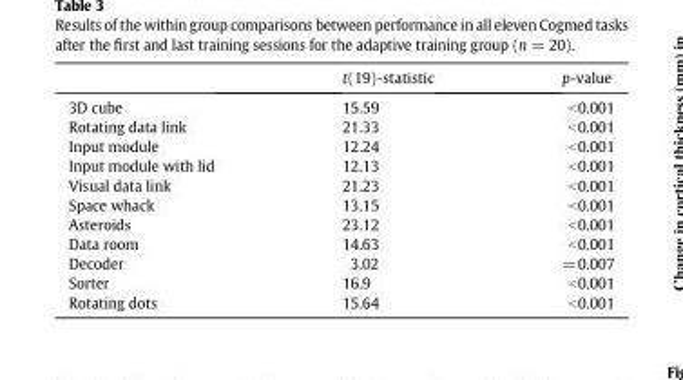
<table><thead><tr><td></td><td>t(19)-statistic</td><td>p-value</td></tr></thead><tbody><tr><td>3D cube</td><td>15.59</td><td>&lt;0.001</td></tr><tr><td>Rotating data link</td><td>21.33</td><td>&lt;0.001</td></tr><tr><td>Input module</td><td>12.24</td><td>&lt;0.001</td></tr><tr><td>Input module with lid</td><td>12.13</td><td>&lt;0.001</td></tr><tr><td>Visual data link</td><td>21.23</td><td>&lt;0.001</td></tr><tr><td>Space whack</td><td>13.15</td><td>&lt;0.001</td></tr><tr><td>Asteroids</td><td>23.12</td><td>&lt;0.001</td></tr><tr><td>Data room</td><td>14.63</td><td>&lt;0.001</td></tr><tr><td>Decoder</td><td>3.02</td><td>=0.007</td></tr><tr><td>Sorter</td><td>16.9</td><td>&lt;0.001</td></tr><tr><td>Rotating dots</td><td>15.64</td><td>&lt;0.001</td></tr></tbody></table>